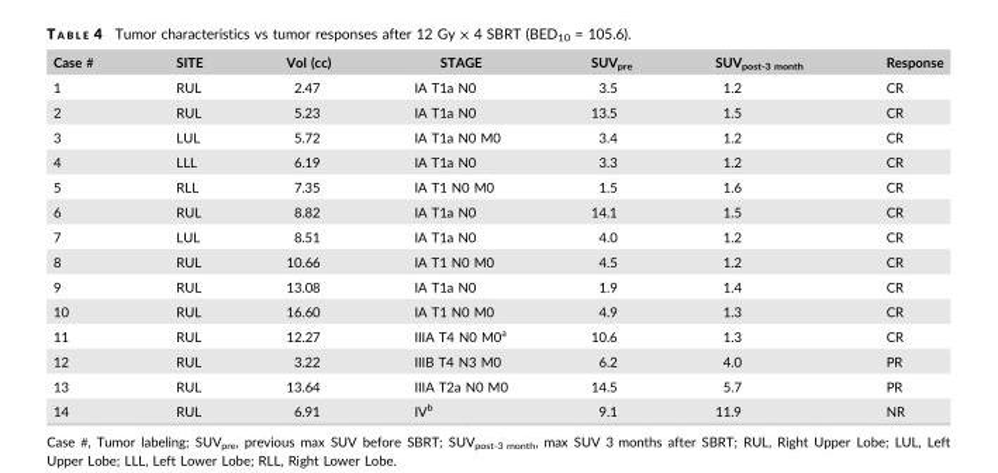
<table><thead><tr><td>Case #</td><td>SITE</td><td>Vol (cc)</td><td>STAGE</td><td>SUV<sub>pre</sub></td><td>SUV<sub>post-3 month</sub></td><td>Response</td></tr></thead><tbody><tr><td>1</td><td>RUL</td><td>2.47</td><td>IA T1a N0</td><td>3.5</td><td>1.2</td><td>CR</td></tr><tr><td>2</td><td>RUL</td><td>5.23</td><td>IA T1a N0</td><td>13.5</td><td>1.5</td><td>CR</td></tr><tr><td>3</td><td>LUL</td><td>5.72</td><td>IA T1a N0 M0</td><td>3.4</td><td>1.2</td><td>CR</td></tr><tr><td>4</td><td>LLL</td><td>6.19</td><td>IA T1a N0</td><td>3.3</td><td>1.2</td><td>CR</td></tr><tr><td>5</td><td>RLL</td><td>7.35</td><td>IA T1 N0 M0</td><td>1.5</td><td>1.6</td><td>CR</td></tr><tr><td>6</td><td>RUL</td><td>8.82</td><td>IA T1a N0</td><td>14.1</td><td>1.5</td><td>CR</td></tr><tr><td>7</td><td>LUL</td><td>8.51</td><td>IA T1a N0</td><td>4.0</td><td>1.2</td><td>CR</td></tr><tr><td>8</td><td>RUL</td><td>10.66</td><td>IA T1 N0 M0</td><td>4.5</td><td>1.2</td><td>CR</td></tr><tr><td>9</td><td>RUL</td><td>13.08</td><td>IA T1a N0</td><td>1.9</td><td>1.4</td><td>CR</td></tr><tr><td>10</td><td>RUL</td><td>16.60</td><td>IA T1 N0 M0</td><td>4.9</td><td>1.3</td><td>CR</td></tr><tr><td>11</td><td>RUL</td><td>12.27</td><td>IIIA T4 N0 M0<sup>a</sup></td><td>10.6</td><td>1.3</td><td>CR</td></tr><tr><td>12</td><td>RUL</td><td>3.22</td><td>IIIB T4 N3 M0</td><td>6.2</td><td>4.0</td><td>PR</td></tr><tr><td>13</td><td>RUL</td><td>13.64</td><td>IIIA T2a N0 M0</td><td>14.5</td><td>5.7</td><td>PR</td></tr><tr><td>14</td><td>RUL</td><td>6.91</td><td>IV<sup>b</sup></td><td>9.1</td><td>11.9</td><td>NR</td></tr></tbody></table>